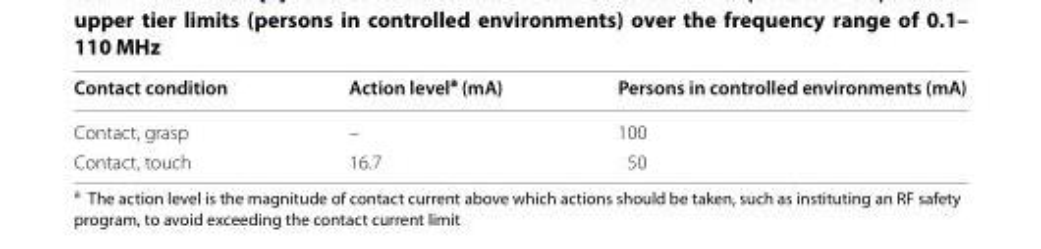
<table><thead><tr><td>Contact condition</td><td>Action level<sup>a</sup> (mA)</td><td>Persons in controlled environments (mA)</td></tr></thead><tbody><tr><td>Contact, grasp</td><td>–</td><td>100</td></tr><tr><td>Contact, touch</td><td>16.7</td><td>50</td></tr></tbody></table>